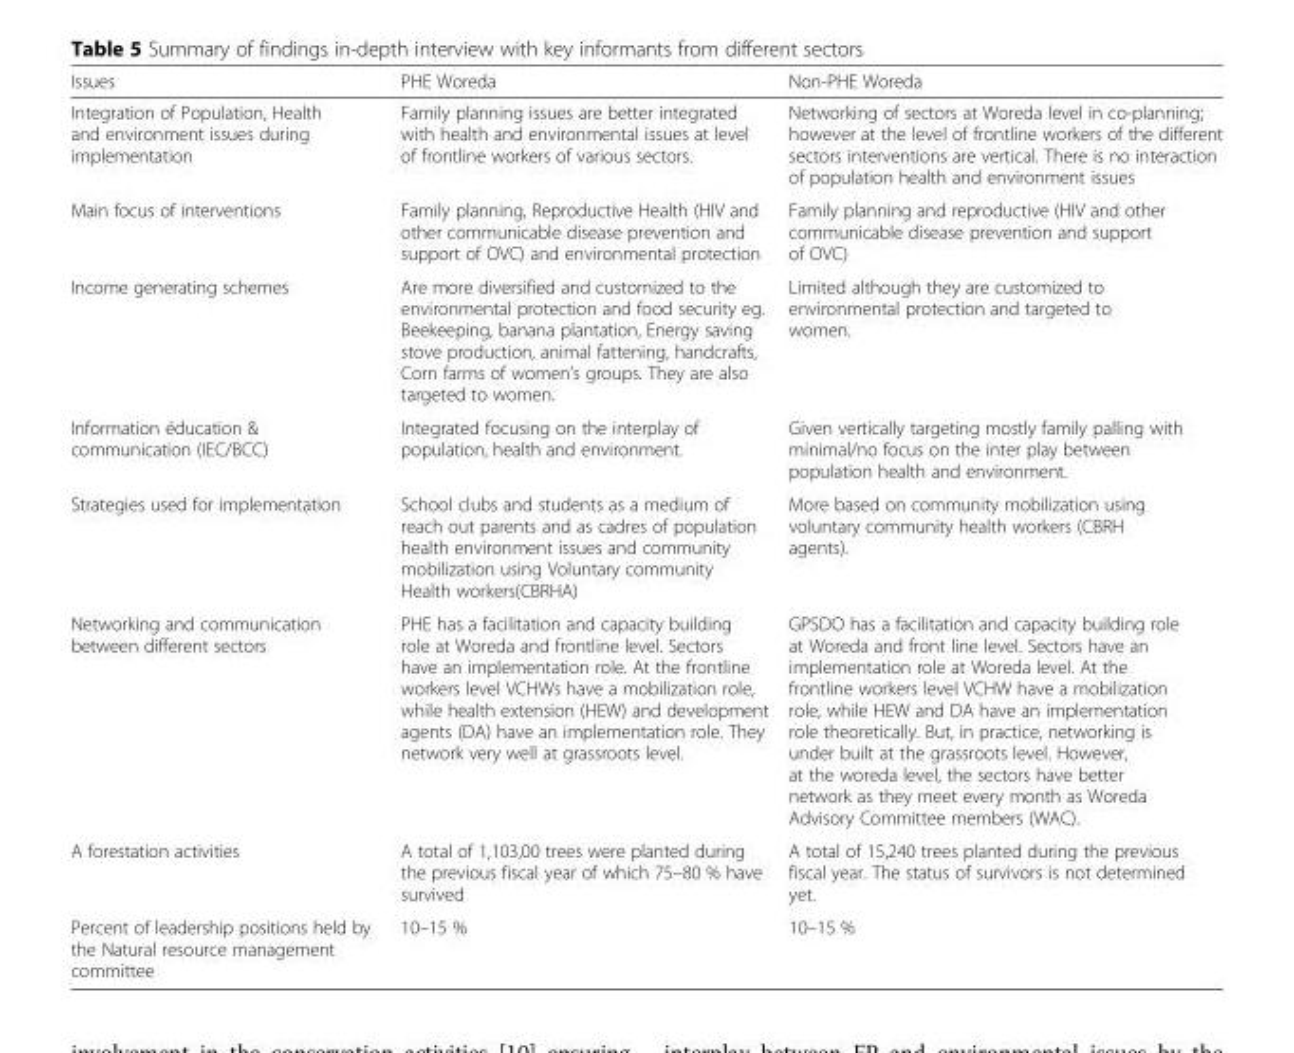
<table><thead><tr><td>Issues</td><td>PHE Woreda</td><td>Non-PHE Woreda</td></tr></thead><tbody><tr><td>Integration of Population, Health and environment issues during implementation</td><td>Family planning issues are better integrated with health and environmental issues at level of frontline workers of various sectors.</td><td>Networking of sectors at Woreda level in co-planning; however at the level of frontline workers of the different sectors interventions are vertical. There is no interaction of population health and environment issues</td></tr><tr><td>Main focus of interventions</td><td>Family planning, Reproductive Health (HIV and other communicable disease prevention and support of OVC) and environmental protection</td><td>Family planning and reproductive (HIV and other communicable disease prevention and support of OVC)</td></tr><tr><td>Income generating schemes</td><td>Are more diversified and customized to the environmental protection and food security eg. Beekeeping, banana plantation, Energy saving stove production, animal fattening, handcrafts, Corn farms of women’s groups. They are also targeted to women.</td><td>Limited although they are customized to environmental protection and targeted to women.</td></tr><tr><td>Information éducation &amp; communication (IEC/BCC)</td><td>Integrated focusing on the interplay of population, health and environment.</td><td>Given vertically targeting mostly family palling with minimal/no focus on the inter play between population health and environment.</td></tr><tr><td>Strategies used for implementation</td><td>School clubs and students as a medium of reach out parents and as cadres of population health environment issues and community mobilization using Voluntary community Health workers(CBRHA)</td><td>More based on community mobilization using voluntary community health workers (CBRH agents).</td></tr><tr><td>Networking and communication between different sectors</td><td>PHE has a facilitation and capacity building role at Woreda and frontline level. Sectors have an implementation role. At the frontline workers level VCHWs have a mobilization role, while health extension (HEW) and development agents (DA) have an implementation role. They network very well at grassroots level.</td><td>GPSDO has a facilitation and capacity building role at Woreda and front line level. Sectors have an implementation role at Woreda level. At the frontline workers level VCHW have a mobilization role, while HEW and DA have an implementation role theoretically. But, in practice, networking is under built at the grassroots level. However, at the woreda level, the sectors have better network as they meet every month as Woreda Advisory Committee members (WAC).</td></tr><tr><td>A forestation activities</td><td>A total of 1,103,00 trees were planted during the previous fiscal year of which 75–80 % have survived</td><td>A total of 15,240 trees planted during the previous fiscal year. The status of survivors is not determined yet.</td></tr><tr><td>Percent of leadership positions held by the Natural resource management committee</td><td>10–15 %</td><td>10–15 %</td></tr></tbody></table>